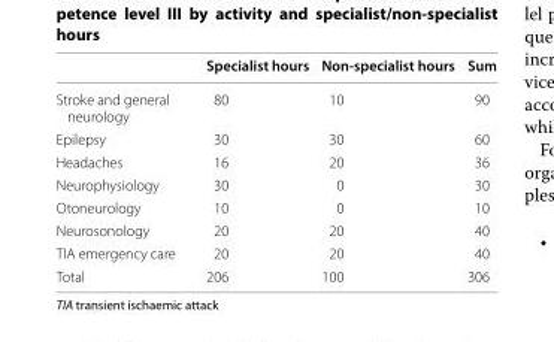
<table><thead><tr><td></td><td>Specialist hours</td><td>Non‑specialist hours</td><td>Sum</td></tr></thead><tbody><tr><td>Stroke and general neurology</td><td>80</td><td>10</td><td>90</td></tr><tr><td>Epilepsy</td><td>30</td><td>30</td><td>60</td></tr><tr><td>Headaches</td><td>16</td><td>20</td><td>36</td></tr><tr><td>Neurophysiology</td><td>30</td><td>0</td><td>30</td></tr><tr><td>Otoneurology</td><td>10</td><td>0</td><td>10</td></tr><tr><td>Neurosonology</td><td>20</td><td>20</td><td>40</td></tr><tr><td>TIA emergency care</td><td>20</td><td>20</td><td>40</td></tr><tr><td>Total</td><td>206</td><td>100</td><td>306</td></tr></tbody></table>